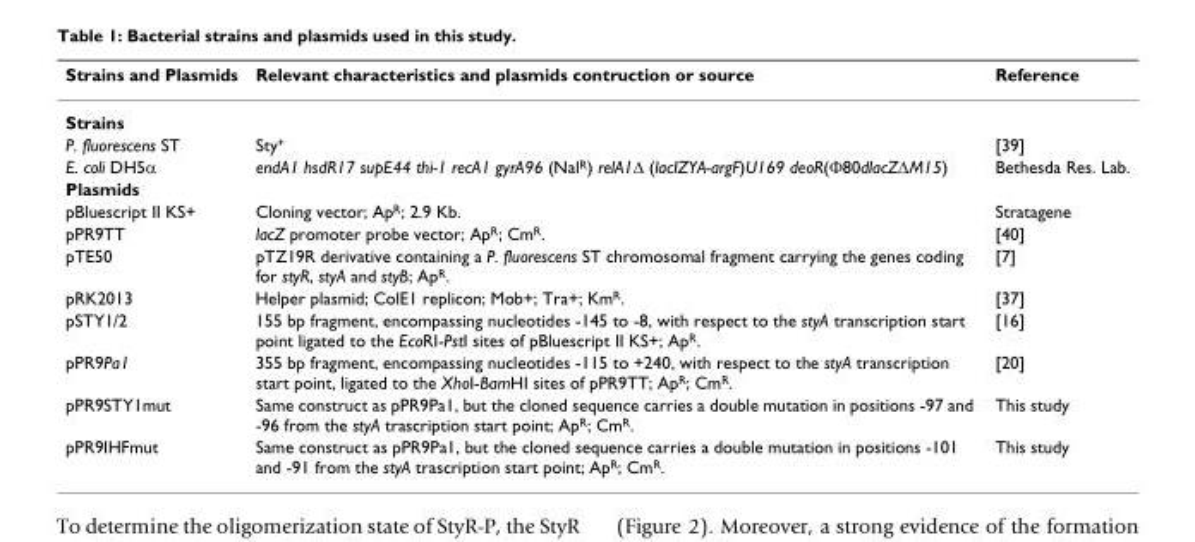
<table><thead><tr><td>Strains and Plasmids</td><td>Relevant characteristics and plasmids contruction or source</td><td>Reference</td></tr></thead><tbody><tr><td colspan="3">Strains</td></tr><tr><td>P. fluorescens ST</td><td>Sty<sup>+</sup></td><td>[39]</td></tr><tr><td>E. coli DH5α</td><td>endA1 hsdR17 supE44 thi-1 recA1 gyrA96 (Nal<sup>R</sup>) relA1Δ (lacIZYA-argF)U169 deoR(Φ80dlacZΔM15)</td><td>Bethesda Res. Lab.</td></tr><tr><td colspan="3">Plasmids</td></tr><tr><td>pBluescript II KS+</td><td>Cloning vector; Ap<sup>R</sup>; 2.9 Kb.</td><td>Stratagene</td></tr><tr><td>pPR9TT</td><td>lacZ promoter probe vector; Ap<sup>R</sup>; Cm<sup>R</sup>.</td><td>[40]</td></tr><tr><td>pTE50</td><td>pTZ19R derivative containing a P. fluorescens ST chromosomal fragment carrying the genes coding for styR, styA and styB; Ap<sup>R</sup>.</td><td>[7]</td></tr><tr><td>pRK2013</td><td>Helper plasmid; ColE1 replicon; Mob+; Tra+; Km<sup>R</sup>.</td><td>[37]</td></tr><tr><td>pSTY1/2</td><td>155 bp fragment, encompassing nucleotides -145 to -8, with respect to the styA transcription start point ligated to the EcoRI-PstI sites of pBluescript II KS+; Ap<sup>R</sup>.</td><td>[16]</td></tr><tr><td>pPR9Pa1</td><td>355 bp fragment, encompassing nucleotides -115 to +240, with respect to the styA transcription start point, ligated to the XhoI-BamHI sites of pPR9TT; Ap<sup>R</sup>; Cm<sup>R</sup>.</td><td>[20]</td></tr><tr><td>pPR9STY1mut</td><td>Same construct as pPR9Pa1, but the cloned sequence carries a double mutation in positions -97 and -96 from the styA trascription start point; Ap<sup>R</sup>; Cm<sup>R</sup>.</td><td>This study</td></tr><tr><td>pPR9IHFmut</td><td>Same construct as pPR9Pa1, but the cloned sequence carries a double mutation in positions -101 and -91 from the styA trascription start point; Ap<sup>R</sup>; Cm<sup>R</sup>.</td><td>This study</td></tr></tbody></table>